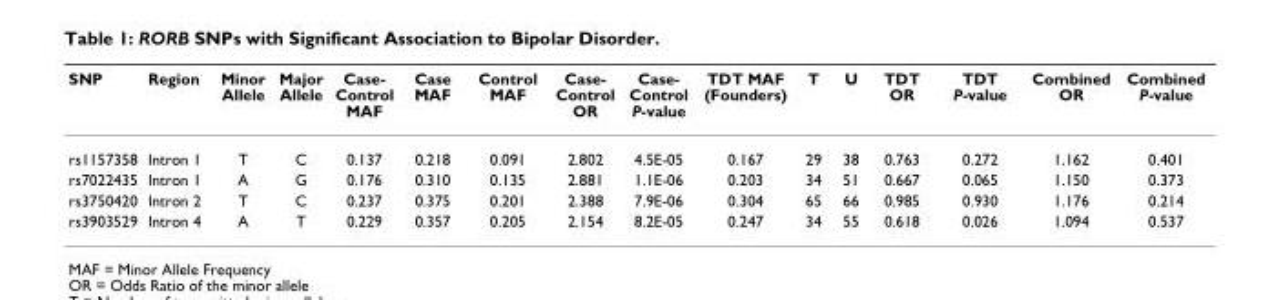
<table><thead><tr><td>SNP</td><td>Region</td><td>Minor Allele</td><td>Major Allele</td><td>Case- Control MAF</td><td>Case MAF</td><td>Control MAF</td><td>Case- Control OR</td><td>Case- Control P-value</td><td>TDT MAF (Founders)</td><td>T</td><td>U</td><td>TDT OR</td><td>TDT P-value</td><td>Combined OR</td><td>Combined P-value</td></tr></thead><tbody><tr><td>rs1157358</td><td>Intron 1</td><td>T</td><td>C</td><td>0.137</td><td>0.218</td><td>0.091</td><td>2.802</td><td>4.5E-05</td><td>0.167</td><td>29</td><td>38</td><td>0.763</td><td>0.272</td><td>1.162</td><td>0.401</td></tr><tr><td>rs7022435</td><td>Intron 1</td><td>A</td><td>G</td><td>0.176</td><td>0.310</td><td>0.135</td><td>2.881</td><td>1.1E-06</td><td>0.203</td><td>34</td><td>51</td><td>0.667</td><td>0.065</td><td>1.150</td><td>0.373</td></tr><tr><td>rs3750420</td><td>Intron 2</td><td>T</td><td>C</td><td>0.237</td><td>0.375</td><td>0.201</td><td>2.388</td><td>7.9E-06</td><td>0.304</td><td>65</td><td>66</td><td>0.985</td><td>0.930</td><td>1.176</td><td>0.214</td></tr><tr><td>rs3903529</td><td>Intron 4</td><td>A</td><td>T</td><td>0.229</td><td>0.357</td><td>0.205</td><td>2.154</td><td>8.2E-05</td><td>0.247</td><td>34</td><td>55</td><td>0.618</td><td>0.026</td><td>1.094</td><td>0.537</td></tr></tbody></table>